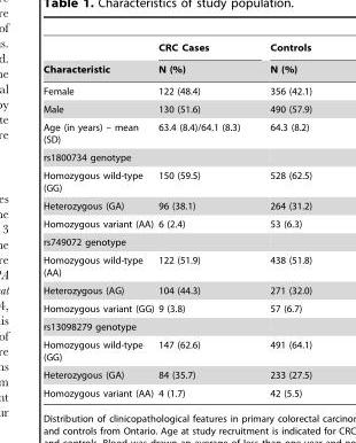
<table><thead><tr><td rowspan="2">Characteristic</td><td rowspan="2">CRC Cases N (%)</td><td rowspan="2">Controls N (%)</td></tr><tr></tr></thead><tbody><tr><td>Female</td><td>122 (48.4)</td><td>356 (42.1)</td></tr><tr><td>Male</td><td>130 (51.6)</td><td>490 (57.9)</td></tr><tr><td>Age (in years) – mean (SD)</td><td>63.4 (8.4)/64.1 (8.3)</td><td>64.3 (8.2)</td></tr><tr><td colspan="3">rs1800734 genotype</td></tr><tr><td>Homozygous wild-type (GG)</td><td>150 (59.5)</td><td>528 (62.5)</td></tr><tr><td>Heterozygous (GA)</td><td>96 (38.1)</td><td>264 (31.2)</td></tr><tr><td>Homozygous variant (AA)</td><td>6 (2.4)</td><td>53 (6.3)</td></tr><tr><td colspan="3">rs749072 genotype</td></tr><tr><td>Homozygous wild-type (AA)</td><td>122 (51.9)</td><td>438 (51.8)</td></tr><tr><td>Heterozygous (AG)</td><td>104 (44.3)</td><td>271 (32.0)</td></tr><tr><td>Homozygous variant (GG)</td><td>9 (3.8)</td><td>57 (6.7)</td></tr><tr><td colspan="3">rs13098279 genotype</td></tr><tr><td>Homozygous wild-type (GG)</td><td>147 (62.6)</td><td>491 (64.1)</td></tr><tr><td>Heterozygous (GA)</td><td>84 (35.7)</td><td>233 (27.5)</td></tr><tr><td>Homozygous variant (AA)</td><td>4 (1.7)</td><td>42 (5.5)</td></tr></tbody></table>